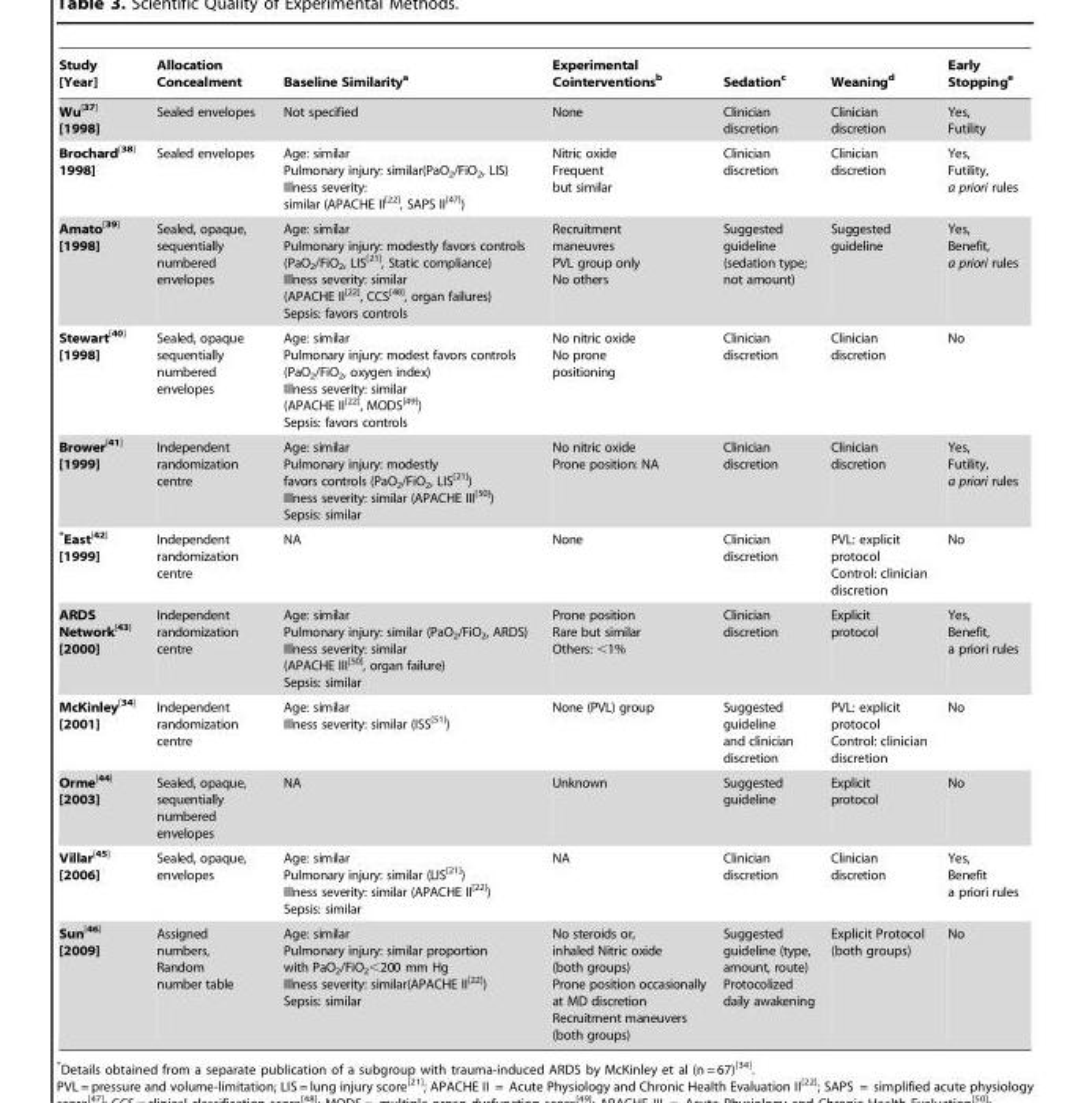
<table><thead><tr><td>Study [Year]</td><td>Allocation Concealment</td><td>Baseline Similarity<sup>a</sup></td><td>Experimental Cointerventions<sup>b</sup></td><td>Sedation<sup>c</sup></td><td>Weaning<sup>d</sup></td><td>Early Stopping<sup>e</sup></td></tr></thead><tbody><tr><td>Wu<sup>[37]</sup> [1998]</td><td>Sealed envelopes</td><td>Not specified</td><td>None</td><td>Clinician discretion</td><td>Clinician discretion</td><td>Yes, Futility</td></tr><tr><td>Brochard<sup>[38]</sup> 1998]</td><td>Sealed envelopes</td><td>Age: similar Pulmonary injury: similar(PaO<sub>2</sub>/FiO<sub>2</sub>, LIS) Illness severity: similar (APACHE II<sup>[22]</sup>, SAPS II<sup>[47]</sup>)</td><td>Nitric oxide Frequent but similar</td><td>Clinician discretion</td><td>Clinician discretion</td><td>Yes, Futility, a priori rules</td></tr><tr><td>Amato<sup>[39]</sup> [1998]</td><td>Sealed, opaque, sequentially numbered envelopes</td><td>Age: similar Pulmonary injury: modestly favors controls (PaO<sub>2</sub>/FiO<sub>2</sub>, LIS<sup>[21]</sup>, Static compliance) Illness severity: similar (APACHE II<sup>[22]</sup>, CCS<sup>[48]</sup>, organ failures) Sepsis: favors controls</td><td>Recruitment maneuvres PVL group only No others</td><td>Suggested guideline (sedation type; not amount)</td><td>Suggested guideline</td><td>Yes, Benefit, a priori rules</td></tr><tr><td>Stewart<sup>[40]</sup> [1998]</td><td>Sealed, opaque sequentially numbered envelopes</td><td>Age: similar Pulmonary injury: modest favors controls (PaO<sub>2</sub>/FiO<sub>2</sub>, oxygen index) Illness severity: similar (APACHE II<sup>[22]</sup>, MODS<sup>[49]</sup>) Sepsis: favors controls</td><td>No nitric oxide No prone positioning</td><td>Clinician discretion</td><td>Clinician discretion</td><td>No</td></tr><tr><td>Brower<sup>[41]</sup> [1999]</td><td>Independent randomization centre</td><td>Age: similar Pulmonary injury: modestly favors controls (PaO<sub>2</sub>/FiO<sub>2</sub>, LIS<sup>[21]</sup>) Illness severity: similar (APACHE III<sup>[50]</sup>) Sepsis: similar</td><td>No nitric oxide Prone position: NA</td><td>Clinician discretion</td><td>Clinician discretion</td><td>Yes, Futility, a priori rules</td></tr><tr><td>*East<sup>[42]</sup> [1999]</td><td>Independent randomization centre</td><td>NA</td><td>None</td><td>Clinician discretion</td><td>PVL: explicit protocol Control: clinician discretion</td><td>No</td></tr><tr><td>ARDS Network<sup>[43]</sup> [2000]</td><td>Independent randomization centre</td><td>Age: similar Pulmonary injury: similar (PaO<sub>2</sub>/FiO<sub>2</sub>, ARDS) Illness severity: similar (APACHE III<sup>[50]</sup>, organ failure) Sepsis: similar</td><td>Prone position Rare but similar Others: &lt;1%</td><td>Clinician discretion</td><td>Explicit protocol</td><td>Yes, Benefit, a priori rules</td></tr><tr><td>McKinley<sup>[34]</sup> [2001]</td><td>Independent randomization centre</td><td>Age: similar Illness severity: similar (ISS<sup>[51]</sup>)</td><td>None (PVL) group</td><td>Suggested guideline and clinician discretion</td><td>PVL: explicit protocol Control: clinician discretion</td><td>No</td></tr><tr><td>Orme<sup>[44]</sup> [2003]</td><td>Sealed, opaque, sequentially numbered envelopes</td><td>NA</td><td>Unknown</td><td>Suggested guideline</td><td>Explicit protocol</td><td>No</td></tr><tr><td>Villar<sup>[45]</sup> [2006]</td><td>Sealed, opaque, envelopes</td><td>Age: similar Pulmonary injury: similar (LIS<sup>[21]</sup>) Illness severity: similar (APACHE II<sup>[22]</sup>) Sepsis: similar</td><td>NA</td><td>Clinician discretion</td><td>Clinician discretion</td><td>Yes, Benefit a priori rules</td></tr><tr><td>Sun<sup>[46]</sup> [2009]</td><td>Assigned numbers, Random number table</td><td>Age: similar Pulmonary injury: similar proportion with PaO<sub>2</sub>/FiO<sub>2</sub>&lt;200 mm Hg Illness severity: similar(APACHE II<sup>[22]</sup>) Sepsis: similar</td><td>No steroids or, inhaled Nitric oxide (both groups) Prone position occasionally at MD discretion Recruitment maneuvers (both groups)</td><td>Suggested guideline (type, amount, route) Protocolized daily awakening</td><td>Explicit Protocol (both groups)</td><td>No</td></tr></tbody></table>